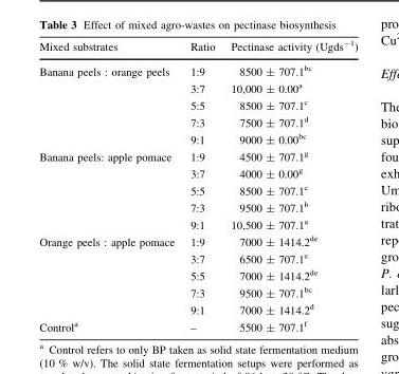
<table><thead><tr><td>Mixed substrates</td><td>Ratio</td><td>Pectinase activity (Ugds<sup>-1</sup>)</td></tr></thead><tbody><tr><td rowspan="5">Banana peels : orange peels</td><td>1:9</td><td>8500 ± 707.1<sup>bc</sup></td></tr><tr><td>3:7</td><td>10,000 ± 0.00<sup>a</sup></td></tr><tr><td>5:5</td><td>8500 ± 707.1<sup>c</sup></td></tr><tr><td>7:3</td><td>7500 ± 707.1<sup>d</sup></td></tr><tr><td>9:1</td><td>9000 ± 0.00<sup>bc</sup></td></tr><tr><td rowspan="5">Banana peels: apple pomace</td><td>1:9</td><td>4500 ± 707.1<sup>g</sup></td></tr><tr><td>3:7</td><td>4000 ± 0.00<sup>g</sup></td></tr><tr><td>5:5</td><td>8500 ± 707.1<sup>c</sup></td></tr><tr><td>7:3</td><td>9500 ± 707.1<sup>b</sup></td></tr><tr><td>9:1</td><td>10,500 ± 707.1<sup>a</sup></td></tr><tr><td rowspan="5">Orange peels : apple pomace</td><td>1:9</td><td>7000 ± 1414.2<sup>de</sup></td></tr><tr><td>3:7</td><td>6500 ± 707.1<sup>e</sup></td></tr><tr><td>5:5</td><td>7000 ± 1414.2<sup>de</sup></td></tr><tr><td>7:3</td><td>9500 ± 707.1<sup>bc</sup></td></tr><tr><td>9:1</td><td>7000 ± 1414.2<sup>d</sup></td></tr><tr><td>Control<sup>a</sup></td><td>–</td><td>5500 ± 707.1<sup>f</sup></td></tr></tbody></table>